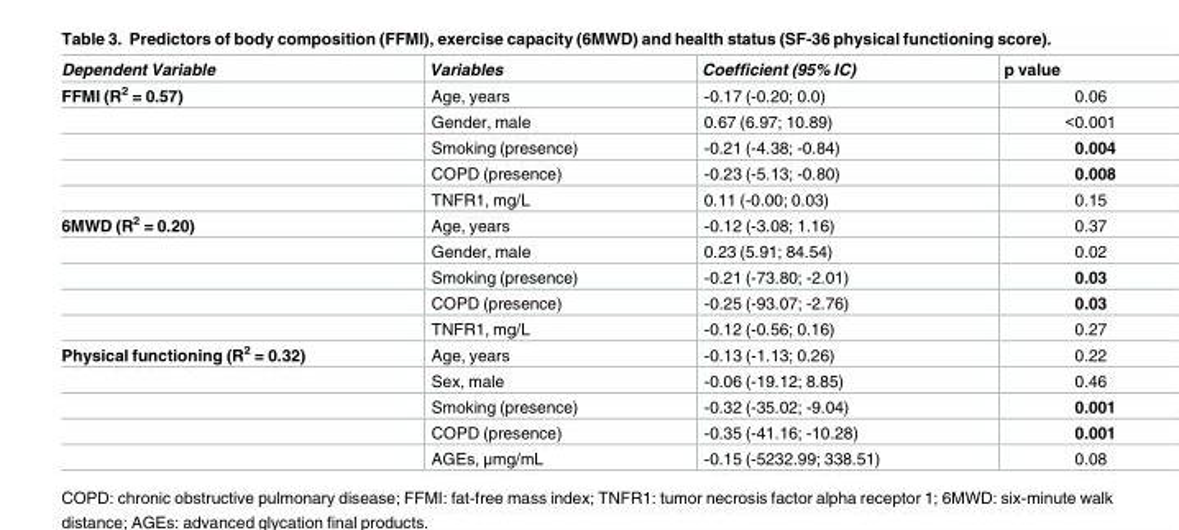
<table><thead><tr><td>Dependent Variable</td><td>Variables</td><td>Coefficient (95% IC)</td><td>p value</td></tr></thead><tbody><tr><td rowspan="5">FFMI (R<sup>2</sup> = 0.57)</td><td>Age, years</td><td>-0.17 (-0.20; 0.0)</td><td>0.06</td></tr><tr><td>Gender, male</td><td>0.67 (6.97; 10.89)</td><td>&lt;0.001</td></tr><tr><td>Smoking (presence)</td><td>-0.21 (-4.38; -0.84)</td><td>0.004</td></tr><tr><td>COPD (presence)</td><td>-0.23 (-5.13; -0.80)</td><td>0.008</td></tr><tr><td>TNFR1, mg/L</td><td>0.11 (-0.00; 0.03)</td><td>0.15</td></tr><tr><td rowspan="5">6MWD (R<sup>2</sup> = 0.20)</td><td>Age, years</td><td>-0.12 (-3.08; 1.16)</td><td>0.37</td></tr><tr><td>Gender, male</td><td>0.23 (5.91; 84.54)</td><td>0.02</td></tr><tr><td>Smoking (presence)</td><td>-0.21 (-73.80; -2.01)</td><td>0.03</td></tr><tr><td>COPD (presence)</td><td>-0.25 (-93.07; -2.76)</td><td>0.03</td></tr><tr><td>TNFR1, mg/L</td><td>-0.12 (-0.56; 0.16)</td><td>0.27</td></tr><tr><td rowspan="5">Physical functioning (R<sup>2</sup> = 0.32)</td><td>Age, years</td><td>-0.13 (-1.13; 0.26)</td><td>0.22</td></tr><tr><td>Sex, male</td><td>-0.06 (-19.12; 8.85)</td><td>0.46</td></tr><tr><td>Smoking (presence)</td><td>-0.32 (-35.02; -9.04)</td><td>0.001</td></tr><tr><td>COPD (presence)</td><td>-0.35 (-41.16; -10.28)</td><td>0.001</td></tr><tr><td>AGEs, μmg/mL</td><td>-0.15 (-5232.99; 338.51)</td><td>0.08</td></tr></tbody></table>